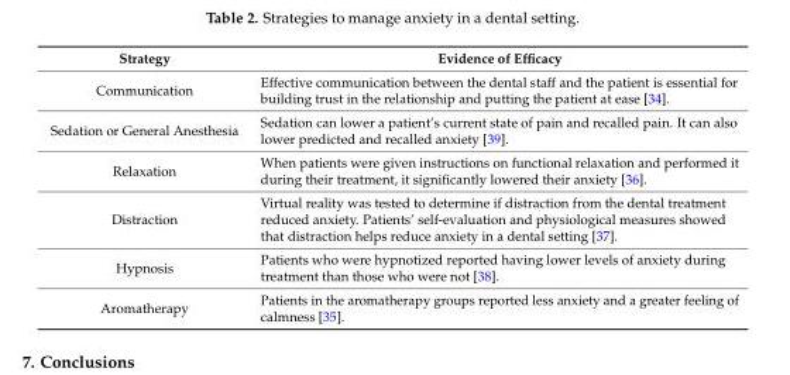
<table><thead><tr><td>Strategy</td><td>Evidence of Efficacy</td></tr></thead><tbody><tr><td>Communication</td><td>Effective communication between the dental staff and the patient is essential for building trust in the relationship and putting the patient at ease [34].</td></tr><tr><td>Sedation or General Anesthesia</td><td>Sedation can lower a patient’s current state of pain and recalled pain. It can also lower predicted and recalled anxiety [39].</td></tr><tr><td>Relaxation</td><td>When patients were given instructions on functional relaxation and performed it during their treatment, it significantly lowered their anxiety [36].</td></tr><tr><td>Distraction</td><td>Virtual reality was tested to determine if distraction from the dental treatment reduced anxiety. Patients’ self-evaluation and physiological measures showed that distraction helps reduce anxiety in a dental setting [37].</td></tr><tr><td>Hypnosis</td><td>Patients who were hypnotized reported having lower levels of anxiety during treatment than those who were not [38].</td></tr><tr><td>Aromatherapy</td><td>Patients in the aromatherapy groups reported less anxiety and a greater feeling of calmness [35].</td></tr></tbody></table>